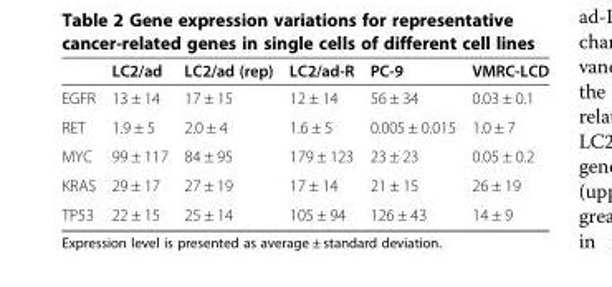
<table><thead><tr><td></td><td>LC2/ad</td><td>LC2/ad (rep)</td><td>LC2/ad-R</td><td>PC-9</td><td>VMRC-LCD</td></tr></thead><tbody><tr><td>EGFR</td><td>13 ± 14</td><td>17 ± 15</td><td>12 ± 14</td><td>56 ± 34</td><td>0.03 ± 0.1</td></tr><tr><td>RET</td><td>1.9 ± 5</td><td>2.0 ± 4</td><td>1.6 ± 5</td><td>0.005 ± 0.015</td><td>1.0 ± 7</td></tr><tr><td>MYC</td><td>99 ± 117</td><td>84 ± 95</td><td>179 ± 123</td><td>23 ± 23</td><td>0.05 ± 0.2</td></tr><tr><td>KRAS</td><td>29 ± 17</td><td>27 ± 19</td><td>17 ± 14</td><td>21 ± 15</td><td>26 ± 19</td></tr><tr><td>TP53</td><td>22 ± 15</td><td>25 ± 14</td><td>105 ± 94</td><td>126 ± 43</td><td>14 ± 9</td></tr></tbody></table>